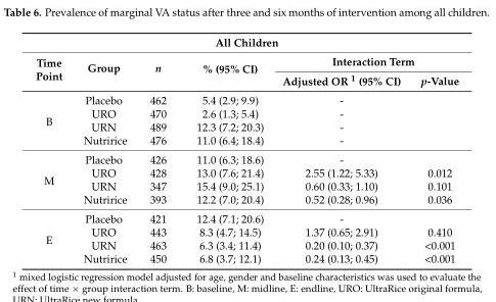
<table><thead><tr><td colspan="6">All Children</td></tr><tr><td rowspan="2">Time Point</td><td rowspan="2">Group</td><td rowspan="2">n</td><td rowspan="2">% (95% CI)</td><td colspan="2">Interaction Term</td></tr><tr><td>Adjusted OR <sup>1</sup> (95% CI)</td><td>p-Value</td></tr></thead><tbody><tr><td rowspan="4">B</td><td>Placebo</td><td>462</td><td>5.4 (2.9; 9.9)</td><td>-</td><td></td></tr><tr><td>URO</td><td>470</td><td>2.6 (1.3; 5.4)</td><td>-</td><td></td></tr><tr><td>URN</td><td>489</td><td>12.3 (7.2; 20.3)</td><td>-</td><td></td></tr><tr><td>Nutririce</td><td>476</td><td>11.0 (6.4; 18.4)</td><td>-</td><td></td></tr><tr><td rowspan="4">M</td><td>Placebo</td><td>426</td><td>11.0 (6.3; 18.6)</td><td>-</td><td></td></tr><tr><td>URO</td><td>428</td><td>13.0 (7.6; 21.4)</td><td>2.55 (1.22; 5.33)</td><td>0.012</td></tr><tr><td>URN</td><td>347</td><td>15.4 (9.0; 25.1)</td><td>0.60 (0.33; 1.10)</td><td>0.101</td></tr><tr><td>Nutririce</td><td>393</td><td>12.2 (7.0; 20.4)</td><td>0.52 (0.28; 0.96)</td><td>0.036</td></tr><tr><td rowspan="4">E</td><td>Placebo</td><td>421</td><td>12.4 (7.1; 20.6)</td><td>-</td><td></td></tr><tr><td>URO</td><td>443</td><td>8.3 (4.7; 14.5)</td><td>1.37 (0.65; 2.91)</td><td>0.410</td></tr><tr><td>URN</td><td>463</td><td>6.3 (3.4; 11.4)</td><td>0.20 (0.10; 0.37)</td><td>&lt;0.001</td></tr><tr><td>Nutririce</td><td>450</td><td>6.8 (3.7; 12.1)</td><td>0.24 (0.13; 0.45)</td><td>&lt;0.001</td></tr></tbody></table>